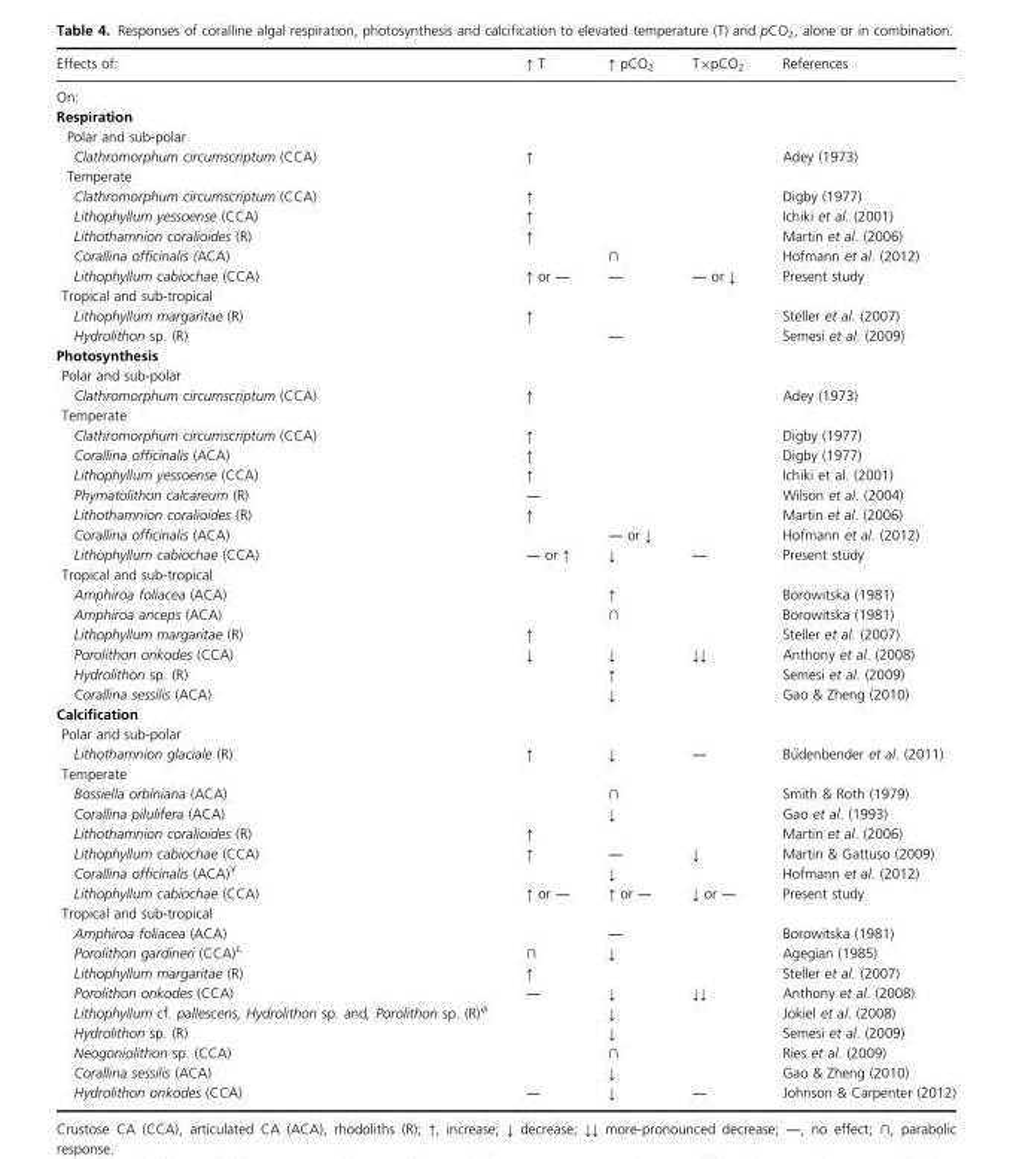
<table><thead><tr><td>Effects of:</td><td>↑ T</td><td>↑ pCO<sub>2</sub></td><td>T×pCO<sub>2</sub></td><td>References</td></tr></thead><tbody><tr><td colspan="5">On:</td></tr><tr><td colspan="5">Respiration</td></tr><tr><td colspan="5">Polar and sub-polar</td></tr><tr><td>Clathromorphum circumscriptum (CCA)</td><td>↑</td><td></td><td></td><td>Adey (1973)</td></tr><tr><td colspan="5">Temperate</td></tr><tr><td>Clathromorphum circumscriptum (CCA)</td><td>↑</td><td></td><td></td><td>Digby (1977)</td></tr><tr><td>Lithophyllum yessoense (CCA)</td><td>↑</td><td></td><td></td><td>Ichiki et al. (2001)</td></tr><tr><td>Lithothamnion coralioides (R)</td><td>↑</td><td></td><td></td><td>Martin et al. (2006)</td></tr><tr><td>Corallina officinalis (ACA)</td><td></td><td>∩</td><td></td><td>Hofmann et al. (2012)</td></tr><tr><td>Lithophyllum cabiochae (CCA)</td><td>↑ or ―</td><td>―</td><td>― or ↓</td><td>Present study</td></tr><tr><td colspan="5">Tropical and sub-tropical</td></tr><tr><td>Lithophyllum margaritae (R)</td><td>↑</td><td></td><td></td><td>Steller et al. (2007)</td></tr><tr><td>Hydrolithon sp. (R)</td><td></td><td>―</td><td></td><td>Semesi et al. (2009)</td></tr><tr><td colspan="5">Photosynthesis</td></tr><tr><td colspan="5">Polar and sub-polar</td></tr><tr><td>Clathromorphum circumscriptum (CCA)</td><td>↑</td><td></td><td></td><td>Adey (1973)</td></tr><tr><td colspan="5">Temperate</td></tr><tr><td>Clathromorphum circumscriptum (CCA)</td><td>↑</td><td></td><td></td><td>Digby (1977)</td></tr><tr><td>Corallina officinalis (ACA)</td><td>↑</td><td></td><td></td><td>Digby (1977)</td></tr><tr><td>Lithophyllum yessoense (CCA)</td><td>↑</td><td></td><td></td><td>Ichiki et al. (2001)</td></tr><tr><td>Phymatolithon calcareum (R)</td><td>―</td><td></td><td></td><td>Wilson et al. (2004)</td></tr><tr><td>Lithothamnion coralioides (R)</td><td>↑</td><td></td><td></td><td>Martin et al. (2006)</td></tr><tr><td>Corallina officinalis (ACA)</td><td></td><td>― or ↓</td><td></td><td>Hofmann et al. (2012)</td></tr><tr><td>Lithophyllum cabiochae (CCA)</td><td>― or ↑</td><td>↓</td><td>―</td><td>Present study</td></tr><tr><td colspan="5">Tropical and sub-tropical</td></tr><tr><td>Amphiroa foliacea (ACA)</td><td></td><td>↑</td><td></td><td>Borowitska (1981)</td></tr><tr><td>Amphiroa anceps (ACA)</td><td></td><td>∩</td><td></td><td>Borowitska (1981)</td></tr><tr><td>Lithophyllum margaritae (R)</td><td>↑</td><td></td><td></td><td>Steller et al. (2007)</td></tr><tr><td>Porolithon onkodes (CCA)</td><td>↓</td><td>↓</td><td>↓↓</td><td>Anthony et al. (2008)</td></tr><tr><td>Hydrolithon sp. (R)</td><td></td><td>↑</td><td></td><td>Semesi et al. (2009)</td></tr><tr><td>Corallina sessilis (ACA)</td><td></td><td>↓</td><td></td><td>Gao &amp; Zheng (2010)</td></tr><tr><td colspan="5">Calcification</td></tr><tr><td colspan="5">Polar and sub-polar</td></tr><tr><td>Lithothamnion glaciale (R)</td><td>↑</td><td>↓</td><td>―</td><td>B€udenbender et al. (2011)</td></tr><tr><td colspan="5">Temperate</td></tr><tr><td>Bossiella orbiniana (ACA)</td><td></td><td>∩</td><td></td><td>Smith &amp; Roth (1979)</td></tr><tr><td>Corallina pilulifera (ACA)</td><td></td><td>↓</td><td></td><td>Gao et al. (1993)</td></tr><tr><td>Lithothamnion coralioides (R)</td><td>↑</td><td></td><td></td><td>Martin et al. (2006)</td></tr><tr><td>Lithophyllum cabiochae (CCA)</td><td>↑</td><td>―</td><td>↓</td><td>Martin &amp; Gattuso (2009)</td></tr><tr><td>Corallina officinalis (ACA)–Y</td><td></td><td>↓</td><td></td><td>Hofmann et al. (2012)</td></tr><tr><td>Lithophyllum cabiochae (CCA)</td><td>↑ or ―</td><td>↑ or ―</td><td>↓ or ―</td><td>Present study</td></tr><tr><td colspan="5">Tropical and sub-tropical</td></tr><tr><td>Amphiroa foliacea (ACA)</td><td></td><td>―</td><td></td><td>Borowitska (1981)</td></tr><tr><td>Porolithon gardineri (CCA)<sup>ξ</sup></td><td>∩</td><td>↓</td><td></td><td>Agegian (1985)</td></tr><tr><td>Lithophyllum margaritae (R)</td><td>↑</td><td></td><td></td><td>Steller et al. (2007)</td></tr><tr><td>Porolithon onkodes (CCA)</td><td>―</td><td>↓</td><td>↓↓</td><td>Anthony et al. (2008)</td></tr><tr><td>Lithophyllum cf. pallescens, Hydrolithon sp. and, Porolithon sp. (R)/</td><td></td><td>↓</td><td></td><td>Jokiel et al. (2008)</td></tr><tr><td>Hydrolithon sp. (R)</td><td></td><td>↓</td><td></td><td>Semesi et al. (2009)</td></tr><tr><td>Neogoniolithon sp. (CCA)</td><td></td><td>∩</td><td></td><td>Ries et al. (2009)</td></tr><tr><td>Corallina sessilis (ACA)</td><td></td><td>↓</td><td></td><td>Gao &amp; Zheng (2010)</td></tr><tr><td>Hydrolithon onkodes (CCA)</td><td>―</td><td>↓</td><td>―</td><td>Johnson &amp; Carpenter (2012)</td></tr></tbody></table>